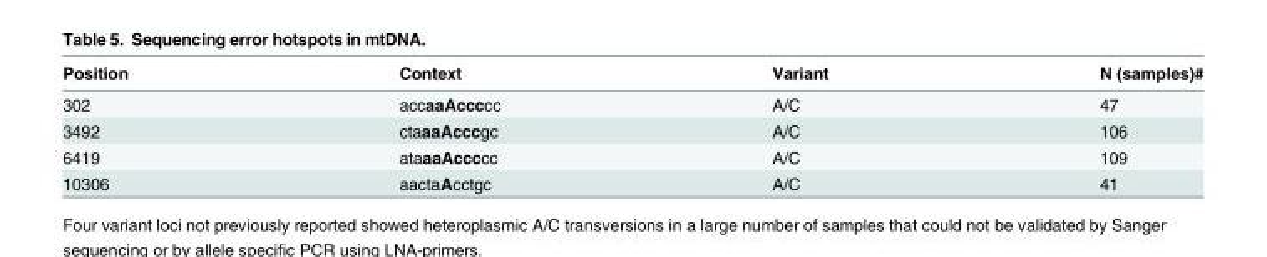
<table><thead><tr><td>Position</td><td>Context</td><td>Variant</td><td>N (samples)#</td></tr></thead><tbody><tr><td>302</td><td>accaaAccccc</td><td>A/C</td><td>47</td></tr><tr><td>3492</td><td>ctaaaAcccgc</td><td>A/C</td><td>106</td></tr><tr><td>6419</td><td>ataaaAccccc</td><td>A/C</td><td>109</td></tr><tr><td>10306</td><td>aactaAcctgc</td><td>A/C</td><td>41</td></tr></tbody></table>